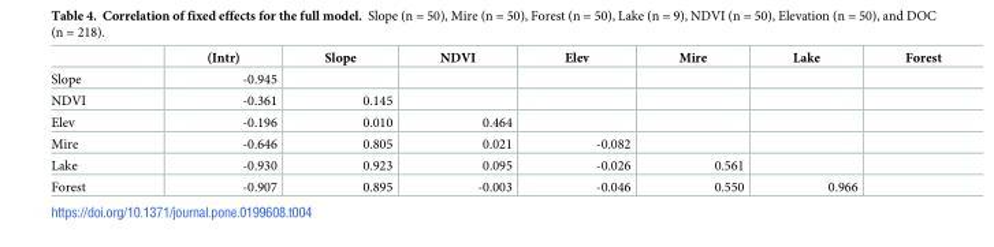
<table><thead><tr><td></td><td>(Intr)</td><td>Slope</td><td>NDVI</td><td>Elev</td><td>Mire</td><td>Lake</td><td>Forest</td></tr></thead><tbody><tr><td>Slope</td><td>-0.945</td><td></td><td></td><td></td><td></td><td></td><td></td></tr><tr><td>NDVI</td><td>-0.361</td><td>0.145</td><td></td><td></td><td></td><td></td><td></td></tr><tr><td>Elev</td><td>-0.196</td><td>0.010</td><td>0.464</td><td></td><td></td><td></td><td></td></tr><tr><td>Mire</td><td>-0.646</td><td>0.805</td><td>0.021</td><td>-0.082</td><td></td><td></td><td></td></tr><tr><td>Lake</td><td>-0.930</td><td>0.923</td><td>0.095</td><td>-0.026</td><td>0.561</td><td></td><td></td></tr><tr><td>Forest</td><td>-0.907</td><td>0.895</td><td>-0.003</td><td>-0.046</td><td>0.550</td><td>0.966</td><td></td></tr></tbody></table>